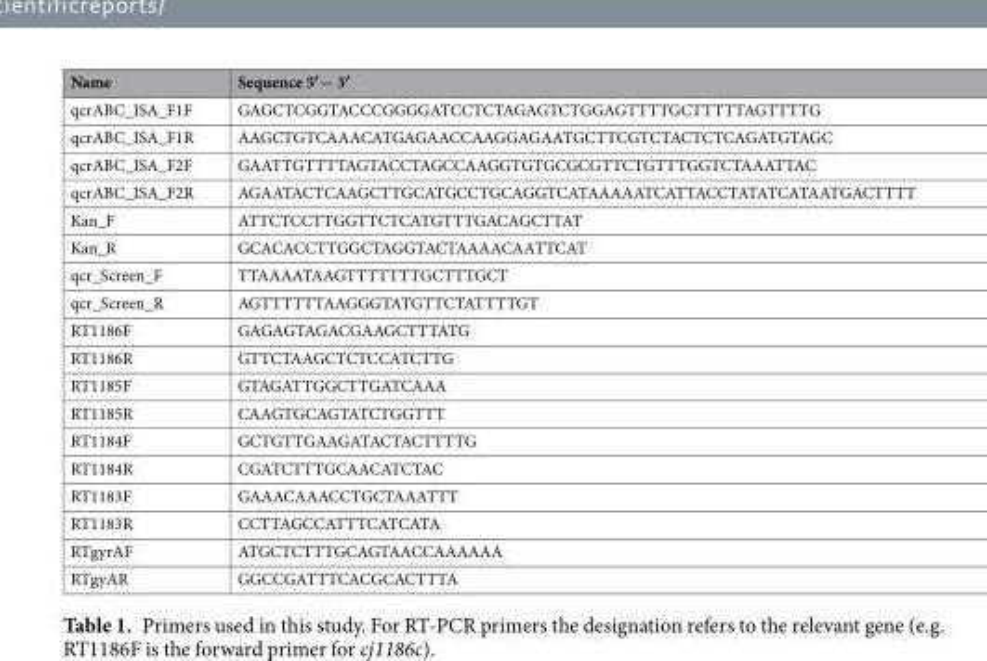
<table><thead><tr><td>Name</td><td>Sequence 5′− 3′</td></tr></thead><tbody><tr><td>qcrABC_ISA_F1F</td><td>GAGCTCGGTACCCGGGGATCCTCTAGAGTCTGGAGTTTTGCTTTTTAGTTTTG</td></tr><tr><td>qcrABC_ISA_F1R</td><td>AAGCTGTCAAACATGAGAACCAAGGAGAATGCTTCGTCTACTCTCAGATGTAGC</td></tr><tr><td>qcrABC_ISA_F2F</td><td>GAATTGTTTTAGTACCTAGCCAAGGTGTGCGCGTTCTGTTTGGTCTAAATTAC</td></tr><tr><td>qcrABC_ISA_F2R</td><td>AGAATACTCAAGCTTGCATGCCTGCAGGTCATAAAAATCATTACCTATATCATAATGACTTTT</td></tr><tr><td>Kan_F</td><td>ATTCTCCTTGGTTCTCATGTTTGACAGCTTAT</td></tr><tr><td>Kan_R</td><td>GCACACCTTGGCTAGGTACTAAAACAATTCAT</td></tr><tr><td>qcr_Screen_F</td><td>TTAAAATAAGTTTTTTTGCTTTGCT</td></tr><tr><td>qcr_Screen_R</td><td>AGTTTTTTAAGGGTATGTTCTATTTTGT</td></tr><tr><td>RT1186F</td><td>GAGAGTAGACGAAGCTTTATG</td></tr><tr><td>RT1186R</td><td>GTTCTAAGCTCTCCATCTTG</td></tr><tr><td>RT1185F</td><td>GTAGATTGGCTTGATCAAA</td></tr><tr><td>RT1185R</td><td>CAAGTGCAGTATCTGGTTT</td></tr><tr><td>RT1184F</td><td>GCTGTTGAAGATACTACTTTTG</td></tr><tr><td>RT1184R</td><td>CGATCTTTGCAACATCTAC</td></tr><tr><td>RT1183F</td><td>GAAACAAACCTGCTAAATTT</td></tr><tr><td>RT1183R</td><td>CCTTAGCCATTTCATCATA</td></tr><tr><td>RTgyrAF</td><td>ATGCTCTTTGCAGTAACCAAAAAA</td></tr><tr><td>RTgyAR</td><td>GGCCGATTTCACGCACTTTA</td></tr></tbody></table>